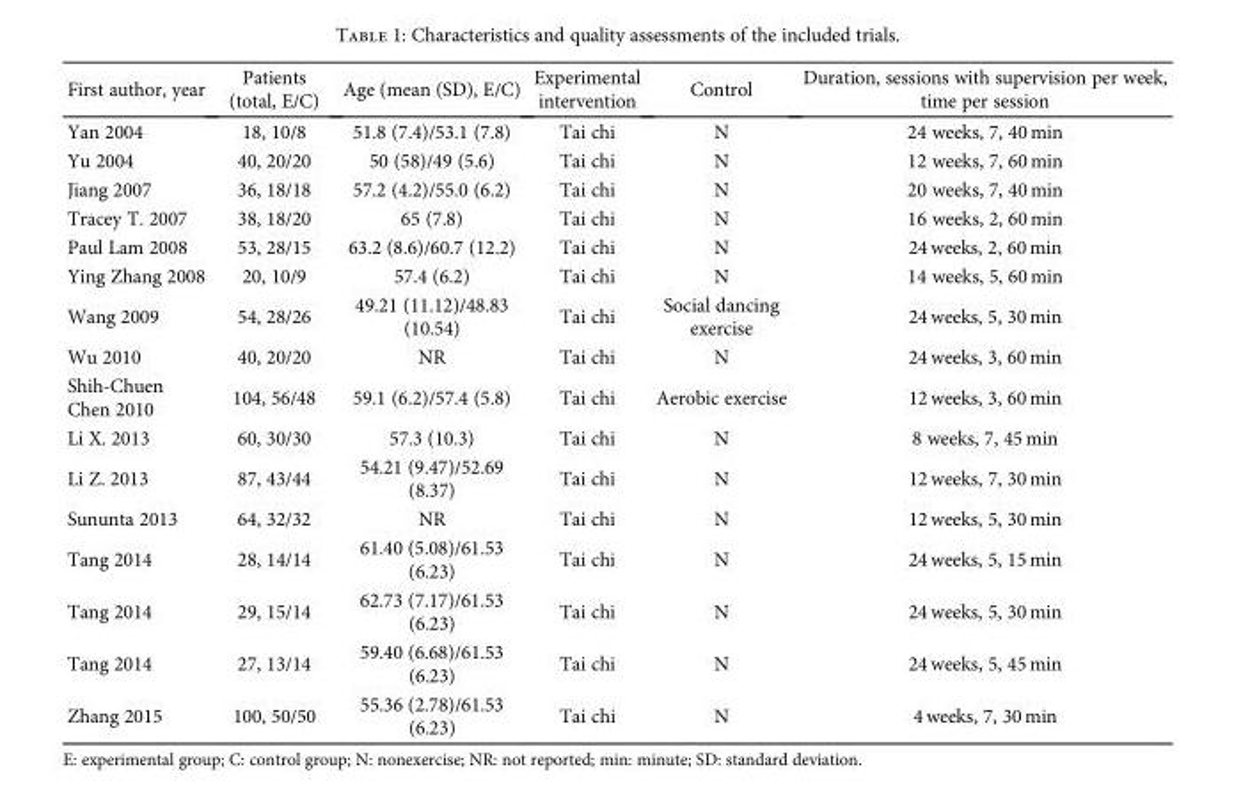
<table><thead><tr><td>First author, year</td><td>Patients (total, E/C)</td><td>Age (mean (SD), E/C)</td><td>Experimental intervention</td><td>Control</td><td>Duration, sessions with supervision per week, time per session</td></tr></thead><tbody><tr><td>Yan 2004</td><td>18, 10/8</td><td>51.8 (7.4)/53.1 (7.8)</td><td>Tai chi</td><td>N</td><td>24 weeks, 7, 40 min</td></tr><tr><td>Yu 2004</td><td>40, 20/20</td><td>50 (58)/49 (5.6)</td><td>Tai chi</td><td>N</td><td>12 weeks, 7, 60 min</td></tr><tr><td>Jiang 2007</td><td>36, 18/18</td><td>57.2 (4.2)/55.0 (6.2)</td><td>Tai chi</td><td>N</td><td>20 weeks, 7, 40 min</td></tr><tr><td>Tracey T. 2007</td><td>38, 18/20</td><td>65 (7.8)</td><td>Tai chi</td><td>N</td><td>16 weeks, 2, 60 min</td></tr><tr><td>Paul Lam 2008</td><td>53, 28/15</td><td>63.2 (8.6)/60.7 (12.2)</td><td>Tai chi</td><td>N</td><td>24 weeks, 2, 60 min</td></tr><tr><td>Ying Zhang 2008</td><td>20, 10/9</td><td>57.4 (6.2)</td><td>Tai chi</td><td>N</td><td>14 weeks, 5, 60 min</td></tr><tr><td>Wang 2009</td><td>54, 28/26</td><td>49.21 (11.12)/48.83 (10.54)</td><td>Tai chi</td><td>Social dancing exercise</td><td>24 weeks, 5, 30 min</td></tr><tr><td>Wu 2010</td><td>40, 20/20</td><td>NR</td><td>Tai chi</td><td>N</td><td>24 weeks, 3, 60 min</td></tr><tr><td>Shih-Chuen Chen 2010</td><td>104, 56/48</td><td>59.1 (6.2)/57.4 (5.8)</td><td>Tai chi</td><td>Aerobic exercise</td><td>12 weeks, 3, 60 min</td></tr><tr><td>Li X. 2013</td><td>60, 30/30</td><td>57.3 (10.3)</td><td>Tai chi</td><td>N</td><td>8 weeks, 7, 45 min</td></tr><tr><td>Li Z. 2013</td><td>87, 43/44</td><td>54.21 (9.47)/52.69 (8.37)</td><td>Tai chi</td><td>N</td><td>12 weeks, 7, 30 min</td></tr><tr><td>Sununta 2013</td><td>64, 32/32</td><td>NR</td><td>Tai chi</td><td>N</td><td>12 weeks, 5, 30 min</td></tr><tr><td>Tang 2014</td><td>28, 14/14</td><td>61.40 (5.08)/61.53 (6.23)</td><td>Tai chi</td><td>N</td><td>24 weeks, 5, 15 min</td></tr><tr><td>Tang 2014</td><td>29, 15/14</td><td>62.73 (7.17)/61.53 (6.23)</td><td>Tai chi</td><td>N</td><td>24 weeks, 5, 30 min</td></tr><tr><td>Tang 2014</td><td>27, 13/14</td><td>59.40 (6.68)/61.53 (6.23)</td><td>Tai chi</td><td>N</td><td>24 weeks, 5, 45 min</td></tr><tr><td>Zhang 2015</td><td>100, 50/50</td><td>55.36 (2.78)/61.53 (6.23)</td><td>Tai chi</td><td>N</td><td>4 weeks, 7, 30 min</td></tr></tbody></table>